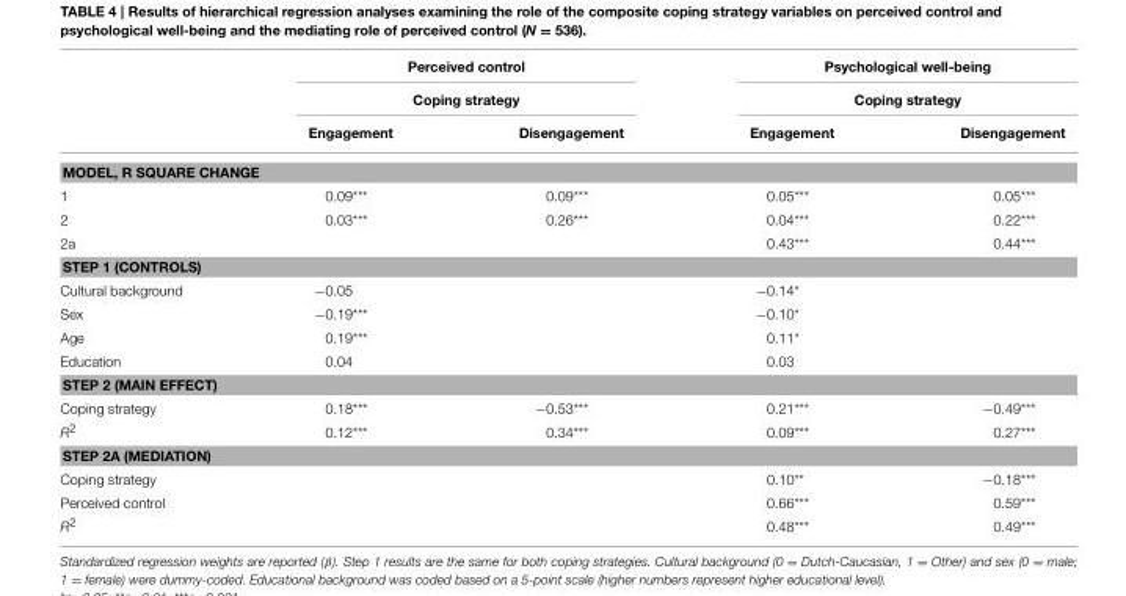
<table><thead><tr><td rowspan="3"></td><td rowspan="2" colspan="2">Perceived control Coping strategy</td><td rowspan="2" colspan="2">Psychological well-being Coping strategy</td></tr><tr></tr><tr><td>Engagement</td><td>Disengagement</td><td>Engagement</td><td>Disengagement</td></tr></thead><tbody><tr><td colspan="5">MODEL, R SQUARE CHANGE</td></tr><tr><td>1</td><td>0.09***</td><td>0.09***</td><td>0.05***</td><td>0.05***</td></tr><tr><td>2</td><td>0.03***</td><td>0.26***</td><td>0.04***</td><td>0.22***</td></tr><tr><td>2a</td><td></td><td></td><td>0.43***</td><td>0.44***</td></tr><tr><td colspan="5">STEP 1 (CONTROLS)</td></tr><tr><td>Cultural background</td><td>−0.05</td><td></td><td>−0.14*</td><td></td></tr><tr><td>Sex</td><td>−0.19***</td><td></td><td>−0.10*</td><td></td></tr><tr><td>Age</td><td>0.19***</td><td></td><td>0.11*</td><td></td></tr><tr><td>Education</td><td>0.04</td><td></td><td>0.03</td><td></td></tr><tr><td colspan="5">STEP 2 (MAIN EFFECT)</td></tr><tr><td>Coping strategy</td><td>0.18***</td><td>−0.53***</td><td>0.21***</td><td>−0.49***</td></tr><tr><td>R<sup>2</sup></td><td>0.12***</td><td>0.34***</td><td>0.09***</td><td>0.27***</td></tr><tr><td colspan="5">STEP 2A (MEDIATION)</td></tr><tr><td>Coping strategy</td><td></td><td></td><td>0.10**</td><td>−0.18***</td></tr><tr><td>Perceived control</td><td></td><td></td><td>0.66***</td><td>0.59***</td></tr><tr><td>R<sup>2</sup></td><td></td><td></td><td>0.48***</td><td>0.49***</td></tr></tbody></table>